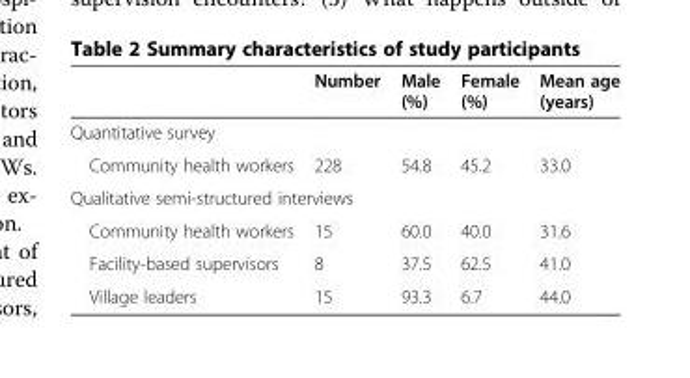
<table><thead><tr><td></td><td>Number</td><td>Male (%)</td><td>Female (%)</td><td>Mean age (years)</td></tr></thead><tbody><tr><td colspan="5">Quantitative survey</td></tr><tr><td>Community health workers</td><td>228</td><td>54.8</td><td>45.2</td><td>33.0</td></tr><tr><td colspan="5">Qualitative semi-structured interviews</td></tr><tr><td>Community health workers</td><td>15</td><td>60.0</td><td>40.0</td><td>31.6</td></tr><tr><td>Facility-based supervisors</td><td>8</td><td>37.5</td><td>62.5</td><td>41.0</td></tr><tr><td>Village leaders</td><td>15</td><td>93.3</td><td>6.7</td><td>44.0</td></tr></tbody></table>